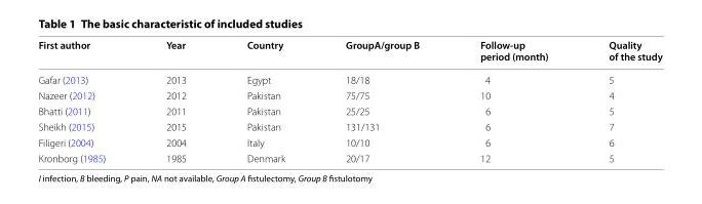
<table><thead><tr><td>First author</td><td>Year</td><td>Country</td><td>GroupA/group B</td><td>Follow-up period (month)</td><td>Quality of the study</td></tr></thead><tbody><tr><td>Gafar (2013)</td><td>2013</td><td>Egypt</td><td>18/18</td><td>4</td><td>5</td></tr><tr><td>Nazeer (2012)</td><td>2012</td><td>Pakistan</td><td>75/75</td><td>10</td><td>4</td></tr><tr><td>Bhatti (2011)</td><td>2011</td><td>Pakistan</td><td>25/25</td><td>6</td><td>5</td></tr><tr><td>Sheikh (2015)</td><td>2015</td><td>Pakistan</td><td>131/131</td><td>6</td><td>7</td></tr><tr><td>Filigeri (2004)</td><td>2004</td><td>Italy</td><td>10/10</td><td>6</td><td>6</td></tr><tr><td>Kronborg (1985)</td><td>1985</td><td>Denmark</td><td>20/17</td><td>12</td><td>5</td></tr></tbody></table>